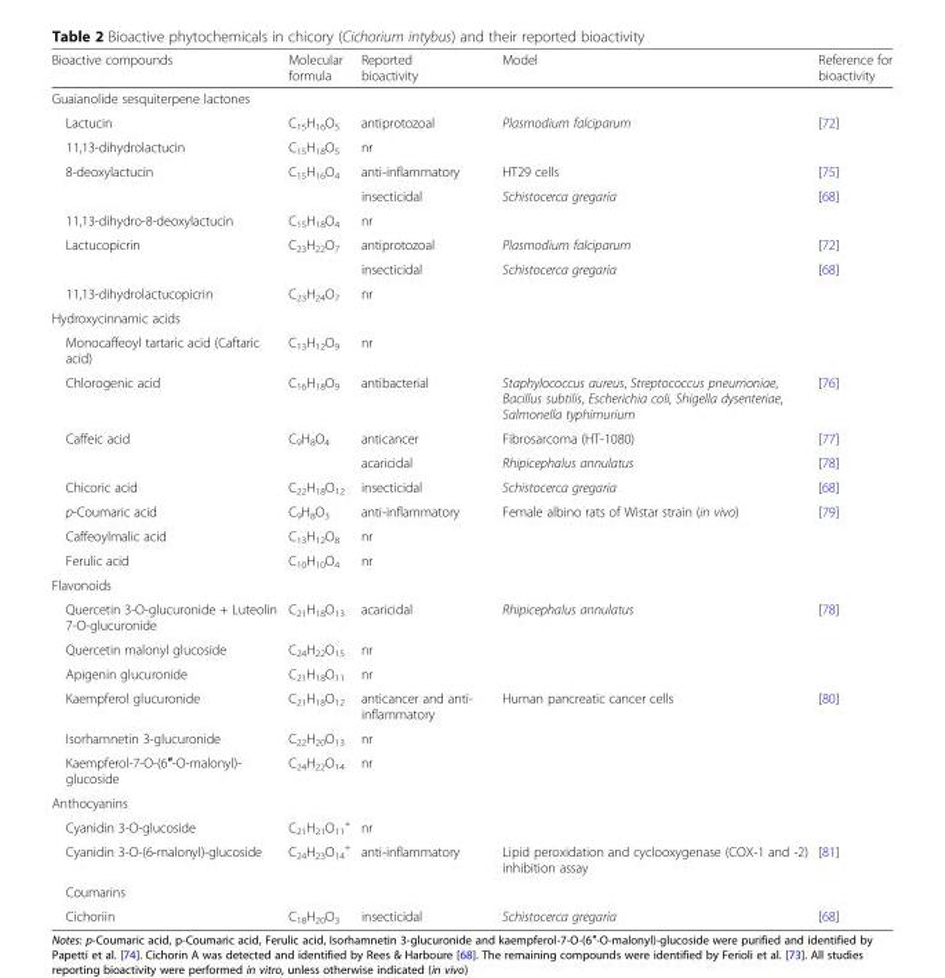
<table><thead><tr><td>Bioactive compounds</td><td>Molecular formula</td><td>Reported bioactivity</td><td>Model</td><td>Reference for bioactivity</td></tr></thead><tbody><tr><td colspan="5">Guaianolide sesquiterpene lactones</td></tr><tr><td>Lactucin</td><td>C<sub>15</sub>H<sub>16</sub>O<sub>5</sub></td><td>antiprotozoal</td><td>Plasmodium falciparum</td><td>[72]</td></tr><tr><td>11,13-dihydrolactucin</td><td>C<sub>15</sub>H<sub>18</sub>O<sub>5</sub></td><td>nr</td><td></td><td></td></tr><tr><td rowspan="2">8-deoxylactucin</td><td rowspan="2">C<sub>15</sub>H<sub>16</sub>O<sub>4</sub></td><td>anti-inflammatory</td><td>HT29 cells</td><td>[75]</td></tr><tr><td>insecticidal</td><td>Schistocerca gregaria</td><td>[68]</td></tr><tr><td>11,13-dihydro-8-deoxylactucin</td><td>C<sub>15</sub>H<sub>18</sub>O<sub>4</sub></td><td>nr</td><td></td><td></td></tr><tr><td rowspan="2">Lactucopicrin</td><td>C<sub>23</sub>H<sub>22</sub>O<sub>7</sub></td><td>antiprotozoal</td><td>Plasmodium falciparum</td><td>[72]</td></tr><tr><td></td><td>insecticidal</td><td>Schistocerca gregaria</td><td>[68]</td></tr><tr><td>11,13-dihydrolactucopicrin</td><td>C<sub>23</sub>H<sub>24</sub>O<sub>7</sub></td><td>nr</td><td></td><td></td></tr><tr><td colspan="5">Hydroxycinnamic acids</td></tr><tr><td>Monocaffeoyl tartaric acid (Caftaric acid)</td><td>C<sub>13</sub>H<sub>12</sub>O<sub>9</sub></td><td>nr</td><td></td><td></td></tr><tr><td>Chlorogenic acid</td><td>C<sub>16</sub>H<sub>18</sub>O<sub>9</sub></td><td>antibacterial</td><td>Staphylococcus aureus, Streptococcus pneumoniae, Bacillus subtilis, Escherichia coli, Shigella dysenteriae, Salmonella typhimurium</td><td>[76]</td></tr><tr><td rowspan="2">Caffeic acid</td><td rowspan="2">C<sub>9</sub>H<sub>8</sub>O<sub>4</sub></td><td>anticancer</td><td>Fibrosarcoma (HT-1080)</td><td>[77]</td></tr><tr><td>acaricidal</td><td>Rhipicephalus annulatus</td><td>[78]</td></tr><tr><td>Chicoric acid</td><td>C<sub>22</sub>H<sub>18</sub>O<sub>12</sub></td><td>insecticidal</td><td>Schistocerca gregaria</td><td>[68]</td></tr><tr><td>p-Coumaric acid</td><td>C<sub>9</sub>H<sub>8</sub>O<sub>3</sub></td><td>anti-inflammatory</td><td>Female albino rats of Wistar strain (in vivo)</td><td>[79]</td></tr><tr><td>Caffeoylmalic acid</td><td>C<sub>13</sub>H<sub>12</sub>O<sub>8</sub></td><td>nr</td><td></td><td></td></tr><tr><td>Ferulic acid</td><td>C<sub>10</sub>H<sub>10</sub>O<sub>4</sub></td><td>nr</td><td></td><td></td></tr><tr><td colspan="5">Flavonoids</td></tr><tr><td>Quercetin 3-O-glucuronide + Luteolin 7-O-glucuronide</td><td>C<sub>21</sub>H<sub>18</sub>O<sub>13</sub></td><td>acaricidal</td><td>Rhipicephalus annulatus</td><td>[78]</td></tr><tr><td>Quercetin malonyl glucoside</td><td>C<sub>24</sub>H<sub>22</sub>O<sub>15</sub></td><td>nr</td><td></td><td></td></tr><tr><td>Apigenin glucuronide</td><td>C<sub>21</sub>H<sub>18</sub>O<sub>11</sub></td><td>nr</td><td></td><td></td></tr><tr><td>Kaempferol glucuronide</td><td>C<sub>21</sub>H<sub>18</sub>O<sub>12</sub></td><td>anticancer and anti- inflammatory</td><td>Human pancreatic cancer cells</td><td>[80]</td></tr><tr><td>Isorhamnetin 3-glucuronide</td><td>C<sub>22</sub>H<sub>20</sub>O<sub>13</sub></td><td>nr</td><td></td><td></td></tr><tr><td>Kaempferol-7-O-(6″-O-malonyl)- glucoside</td><td>C<sub>24</sub>H<sub>22</sub>O<sub>14</sub></td><td>nr</td><td></td><td></td></tr><tr><td colspan="5">Anthocyanins</td></tr><tr><td>Cyanidin 3-O-glucoside</td><td>C<sub>21</sub>H<sub>21</sub>O<sub>11</sub> <sup>+</sup></td><td>nr</td><td></td><td></td></tr><tr><td>Cyanidin 3-O-(6-malonyl)-glucoside</td><td>C<sub>24</sub>H<sub>23</sub>O<sub>14</sub> <sup>+</sup></td><td>anti-inflammatory</td><td>Lipid peroxidation and cyclooxygenase (COX-1 and -2) inhibition assay</td><td>[81]</td></tr><tr><td colspan="5">Coumarins</td></tr><tr><td>Cichoriin</td><td>C<sub>18</sub>H<sub>20</sub>O<sub>3</sub></td><td>insecticidal</td><td>Schistocerca gregaria</td><td>[68]</td></tr></tbody></table>